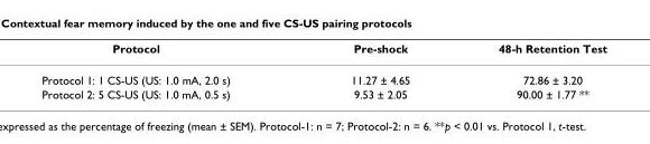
<table><thead><tr><td>Protocol</td><td>Pre-shock</td><td>48-h Retention Test</td></tr></thead><tbody><tr><td>Protocol 1: 1 CS-US (US: 1.0 mA, 2.0 s)</td><td>11.27 ± 4.65</td><td>72.86 ± 3.20</td></tr><tr><td>Protocol 2: 5 CS-US (US: 1.0 mA, 0.5 s)</td><td>9.53 ± 2.05</td><td>90.00 ± 1.77 **</td></tr></tbody></table>